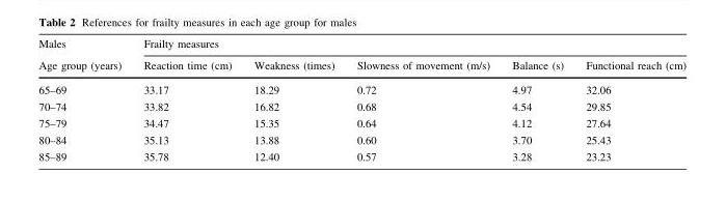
<table><thead><tr><td rowspan="2">Males Age group (years)</td><td colspan="5">Frailty measures</td></tr><tr><td>Reaction time (cm)</td><td>Weakness (times)</td><td>Slowness of movement (m/s)</td><td>Balance (s)</td><td>Functional reach (cm)</td></tr></thead><tbody><tr><td>65–69</td><td>33.17</td><td>18.29</td><td>0.72</td><td>4.97</td><td>32.06</td></tr><tr><td>70–74</td><td>33.82</td><td>16.82</td><td>0.68</td><td>4.54</td><td>29.85</td></tr><tr><td>75–79</td><td>34.47</td><td>15.35</td><td>0.64</td><td>4.12</td><td>27.64</td></tr><tr><td>80–84</td><td>35.13</td><td>13.88</td><td>0.60</td><td>3.70</td><td>25.43</td></tr><tr><td>85–89</td><td>35.78</td><td>12.40</td><td>0.57</td><td>3.28</td><td>23.23</td></tr></tbody></table>